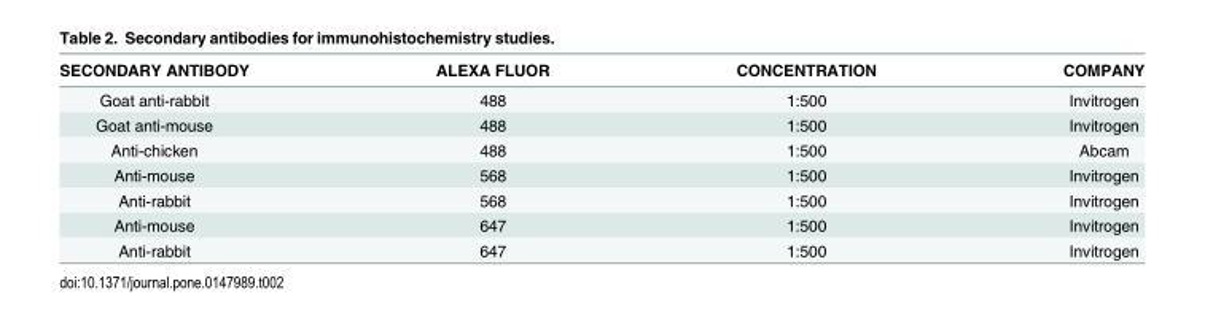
<table><thead><tr><td>SECONDARY ANTIBODY</td><td>ALEXA FLUOR</td><td>CONCENTRATION</td><td>COMPANY</td></tr></thead><tbody><tr><td>Goat anti-rabbit</td><td>488</td><td>1:500</td><td>Invitrogen</td></tr><tr><td>Goat anti-mouse</td><td>488</td><td>1:500</td><td>Invitrogen</td></tr><tr><td>Anti-chicken</td><td>488</td><td>1:500</td><td>Abcam</td></tr><tr><td>Anti-mouse</td><td>568</td><td>1:500</td><td>Invitrogen</td></tr><tr><td>Anti-rabbit</td><td>568</td><td>1:500</td><td>Invitrogen</td></tr><tr><td>Anti-mouse</td><td>647</td><td>1:500</td><td>Invitrogen</td></tr><tr><td>Anti-rabbit</td><td>647</td><td>1:500</td><td>Invitrogen</td></tr></tbody></table>